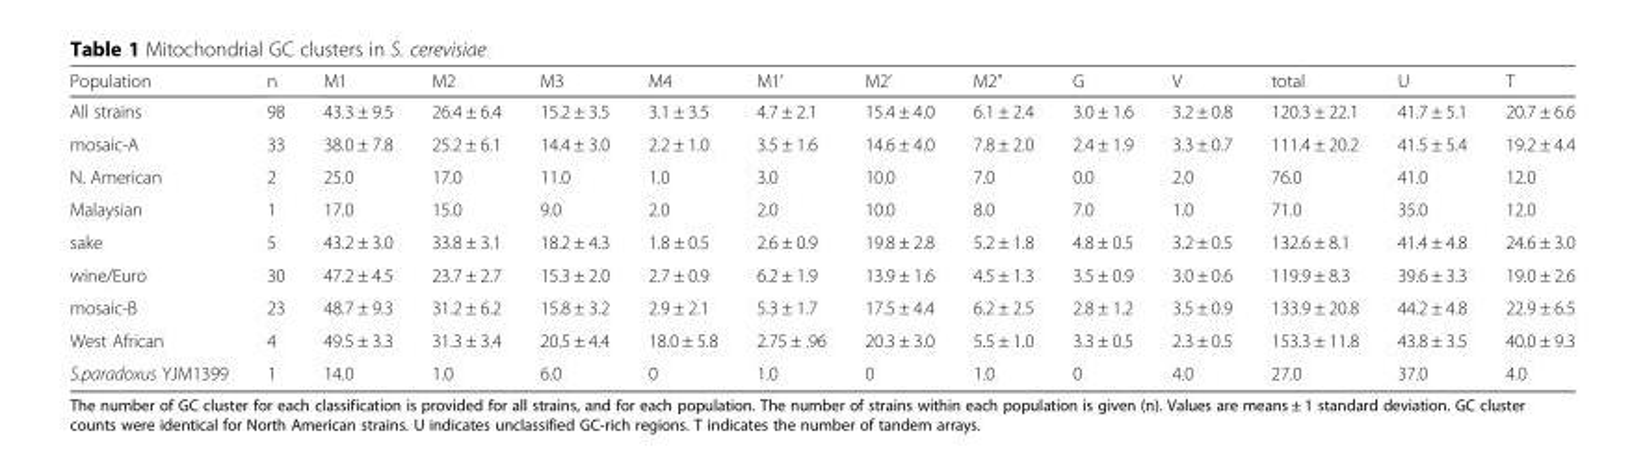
<table><thead><tr><td>Population</td><td>n</td><td>M1</td><td>M2</td><td>M3</td><td>M4</td><td>M1’</td><td>M2’</td><td>M2”</td><td>G</td><td>V</td><td>total</td><td>U</td><td>T</td></tr></thead><tbody><tr><td>All strains</td><td>98</td><td>43.3 ± 9.5</td><td>26.4 ± 6.4</td><td>15.2 ± 3.5</td><td>3.1 ± 3.5</td><td>4.7 ± 2.1</td><td>15.4 ± 4.0</td><td>6.1 ± 2.4</td><td>3.0 ± 1.6</td><td>3.2 ± 0.8</td><td>120.3 ± 22.1</td><td>41.7 ± 5.1</td><td>20.7 ± 6.6</td></tr><tr><td>mosaic-A</td><td>33</td><td>38.0 ± 7.8</td><td>25.2 ± 6.1</td><td>14.4 ± 3.0</td><td>2.2 ± 1.0</td><td>3.5 ± 1.6</td><td>14.6 ± 4.0</td><td>7.8 ± 2.0</td><td>2.4 ± 1.9</td><td>3.3 ± 0.7</td><td>111.4 ± 20.2</td><td>41.5 ± 5.4</td><td>19.2 ± 4.4</td></tr><tr><td>N. American</td><td>2</td><td>25.0</td><td>17.0</td><td>11.0</td><td>1.0</td><td>3.0</td><td>10.0</td><td>7.0</td><td>0.0</td><td>2.0</td><td>76.0</td><td>41.0</td><td>12.0</td></tr><tr><td>Malaysian</td><td>1</td><td>17.0</td><td>15.0</td><td>9.0</td><td>2.0</td><td>2.0</td><td>10.0</td><td>8.0</td><td>7.0</td><td>1.0</td><td>71.0</td><td>35.0</td><td>12.0</td></tr><tr><td>sake</td><td>5</td><td>43.2 ± 3.0</td><td>33.8 ± 3.1</td><td>18.2 ± 4.3</td><td>1.8 ± 0.5</td><td>2.6 ± 0.9</td><td>19.8 ± 2.8</td><td>5.2 ± 1.8</td><td>4.8 ± 0.5</td><td>3.2 ± 0.5</td><td>132.6 ± 8.1</td><td>41.4 ± 4.8</td><td>24.6 ± 3.0</td></tr><tr><td>wine/Euro</td><td>30</td><td>47.2 ± 4.5</td><td>23.7 ± 2.7</td><td>15.3 ± 2.0</td><td>2.7 ± 0.9</td><td>6.2 ± 1.9</td><td>13.9 ± 1.6</td><td>4.5 ± 1.3</td><td>3.5 ± 0.9</td><td>3.0 ± 0.6</td><td>119.9 ± 8.3</td><td>39.6 ± 3.3</td><td>19.0 ± 2.6</td></tr><tr><td>mosaic-B</td><td>23</td><td>48.7 ± 9.3</td><td>31.2 ± 6.2</td><td>15.8 ± 3.2</td><td>2.9 ± 2.1</td><td>5.3 ± 1.7</td><td>17.5 ± 4.4</td><td>6.2 ± 2.5</td><td>2.8 ± 1.2</td><td>3.5 ± 0.9</td><td>133.9 ± 20.8</td><td>44.2 ± 4.8</td><td>22.9 ± 6.5</td></tr><tr><td>West African</td><td>4</td><td>49.5 ± 3.3</td><td>31.3 ± 3.4</td><td>20.5 ± 4.4</td><td>18.0 ± 5.8</td><td>2.75 ± .96</td><td>20.3 ± 3.0</td><td>5.5 ± 1.0</td><td>3.3 ± 0.5</td><td>2.3 ± 0.5</td><td>153.3 ± 11.8</td><td>43.8 ± 3.5</td><td>40.0 ± 9.3</td></tr><tr><td>S.paradoxus YJM1399</td><td>1</td><td>14.0</td><td>1.0</td><td>6.0</td><td>0</td><td>1.0</td><td>0</td><td>1.0</td><td>0</td><td>4.0</td><td>27.0</td><td>37.0</td><td>4.0</td></tr></tbody></table>